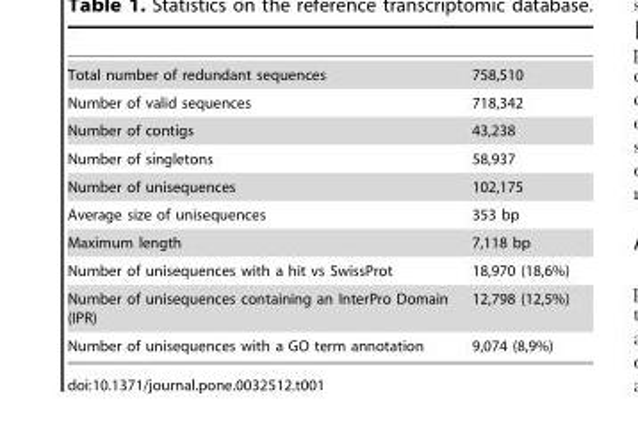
<table><tbody><tr><td>Total number of redundant sequences</td><td>758,510</td></tr><tr><td>Number of valid sequences</td><td>718,342</td></tr><tr><td>Number of contigs</td><td>43,238</td></tr><tr><td>Number of singletons</td><td>58,937</td></tr><tr><td>Number of unisequences</td><td>102,175</td></tr><tr><td>Average size of unisequences</td><td>353 bp</td></tr><tr><td>Maximum length</td><td>7,118 bp</td></tr><tr><td>Number of unisequences with a hit vs SwissProt</td><td>18,970 (18,6%)</td></tr><tr><td>Number of unisequences containing an InterPro Domain (IPR)</td><td>12,798 (12,5%)</td></tr><tr><td>Number of unisequences with a GO term annotation</td><td>9,074 (8,9%)</td></tr></tbody></table>